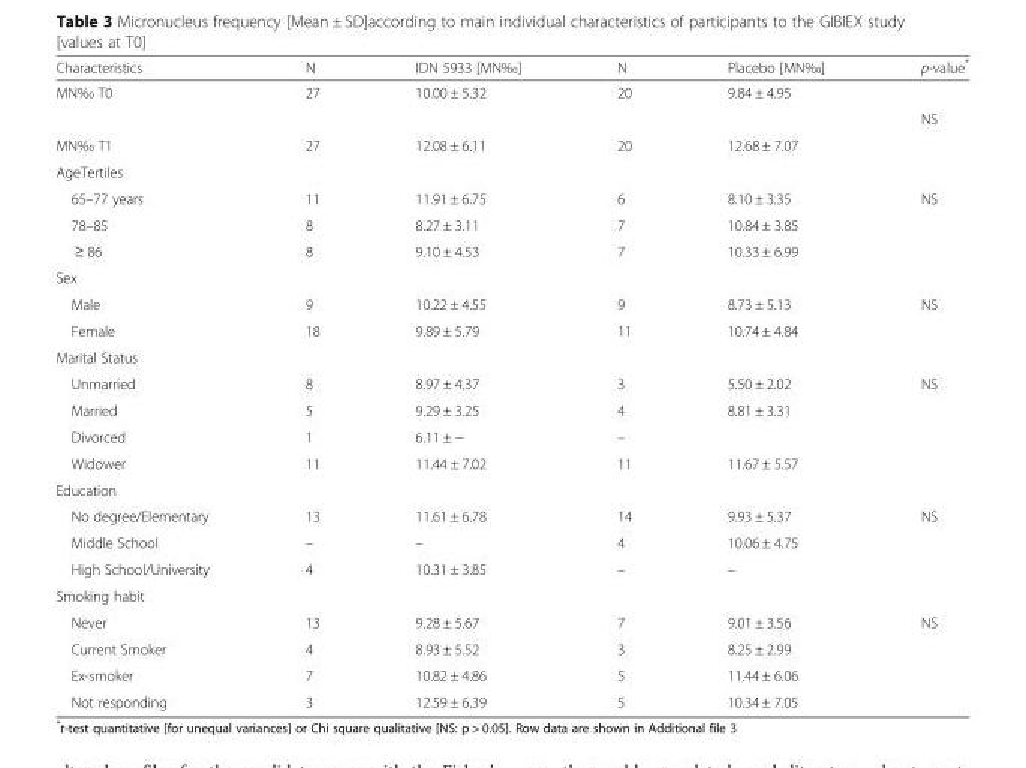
<table><thead><tr><td>Characteristics</td><td>N</td><td>IDN 5933 [MN‰]</td><td>N</td><td>Placebo [MN‰]</td><td>p-value*</td></tr></thead><tbody><tr><td rowspan="2">MN‰ T0</td><td>27</td><td>10.00 ± 5.32</td><td>20</td><td>9.84 ± 4.95</td><td></td></tr><tr><td></td><td></td><td></td><td></td><td>NS</td></tr><tr><td>MN‰ T1</td><td>27</td><td>12.08 ± 6.11</td><td>20</td><td>12.68 ± 7.07</td><td></td></tr><tr><td colspan="6">AgeTertiles</td></tr><tr><td>65–77 years</td><td>11</td><td>11.91 ± 6.75</td><td>6</td><td>8.10 ± 3.35</td><td>NS</td></tr><tr><td>78–85</td><td>8</td><td>8.27 ± 3.11</td><td>7</td><td>10.84 ± 3.85</td><td></td></tr><tr><td>≥ 86</td><td>8</td><td>9.10 ± 4.53</td><td>7</td><td>10.33 ± 6.99</td><td></td></tr><tr><td colspan="6">Sex</td></tr><tr><td>Male</td><td>9</td><td>10.22 ± 4.55</td><td>9</td><td>8.73 ± 5.13</td><td>NS</td></tr><tr><td>Female</td><td>18</td><td>9.89 ± 5.79</td><td>11</td><td>10.74 ± 4.84</td><td></td></tr><tr><td colspan="6">Marital Status</td></tr><tr><td>Unmarried</td><td>8</td><td>8.97 ± 4.37</td><td>3</td><td>5.50 ± 2.02</td><td>NS</td></tr><tr><td>Married</td><td>5</td><td>9.29 ± 3.25</td><td>4</td><td>8.81 ± 3.31</td><td></td></tr><tr><td>Divorced</td><td>1</td><td>6.11 ± −</td><td>–</td><td></td><td></td></tr><tr><td>Widower</td><td>11</td><td>11.44 ± 7.02</td><td>11</td><td>11.67 ± 5.57</td><td></td></tr><tr><td colspan="6">Education</td></tr><tr><td>No degree/Elementary</td><td>13</td><td>11.61 ± 6.78</td><td>14</td><td>9.93 ± 5.37</td><td>NS</td></tr><tr><td>Middle School</td><td>–</td><td>–</td><td>4</td><td>10.06 ± 4.75</td><td></td></tr><tr><td>High School/University</td><td>4</td><td>10.31 ± 3.85</td><td>–</td><td>–</td><td></td></tr><tr><td colspan="6">Smoking habit</td></tr><tr><td>Never</td><td>13</td><td>9.28 ± 5.67</td><td>7</td><td>9.01 ± 3.56</td><td>NS</td></tr><tr><td>Current Smoker</td><td>4</td><td>8.93 ± 5.52</td><td>3</td><td>8.25 ± 2.99</td><td></td></tr><tr><td>Ex-smoker</td><td>7</td><td>10.82 ± 4.86</td><td>5</td><td>11.44 ± 6.06</td><td></td></tr><tr><td>Not responding</td><td>3</td><td>12.59 ± 6.39</td><td>5</td><td>10.34 ± 7.05</td><td></td></tr></tbody></table>